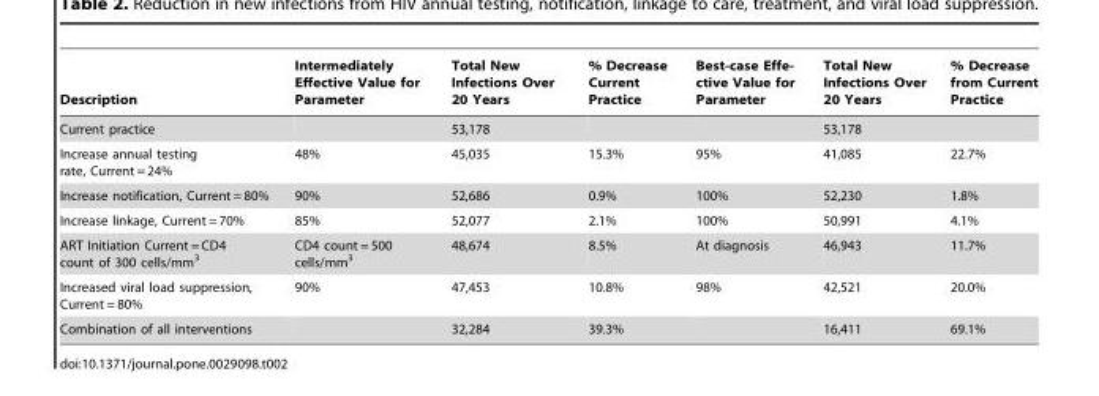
<table><thead><tr><td>Description</td><td>Intermediately Effective Value for Parameter</td><td>Total New Infections Over 20 Years</td><td>% Decrease Current Practice</td><td>Best-case Effe- ctive Value for Parameter</td><td>Total New Infections Over 20 Years</td><td>% Decrease from Current Practice</td></tr></thead><tbody><tr><td>Current practice</td><td></td><td>53,178</td><td></td><td></td><td>53,178</td><td></td></tr><tr><td>Increase annual testing rate, Current = 24%</td><td>48%</td><td>45,035</td><td>15.3%</td><td>95%</td><td>41,085</td><td>22.7%</td></tr><tr><td>Increase notification, Current = 80%</td><td>90%</td><td>52,686</td><td>0.9%</td><td>100%</td><td>52,230</td><td>1.8%</td></tr><tr><td>Increase linkage, Current = 70%</td><td>85%</td><td>52,077</td><td>2.1%</td><td>100%</td><td>50,991</td><td>4.1%</td></tr><tr><td>ART Initiation Current = CD4 count of 300 cells/mm<sup>3</sup></td><td>CD4 count = 500 cells/mm<sup>3</sup></td><td>48,674</td><td>8.5%</td><td>At diagnosis</td><td>46,943</td><td>11.7%</td></tr><tr><td>Increased viral load suppression, Current = 80%</td><td>90%</td><td>47,453</td><td>10.8%</td><td>98%</td><td>42,521</td><td>20.0%</td></tr><tr><td>Combination of all interventions</td><td></td><td>32,284</td><td>39.3%</td><td></td><td>16,411</td><td>69.1%</td></tr></tbody></table>